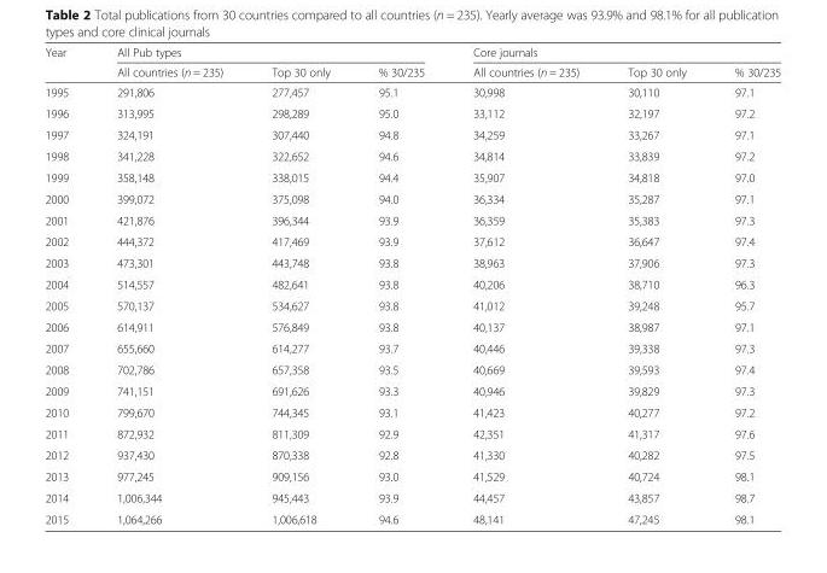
<table><thead><tr><td rowspan="2">Year</td><td colspan="3">All Pub types</td><td colspan="3">Core journals</td></tr><tr><td>All countries (n = 235)</td><td>Top 30 only</td><td>% 30/235</td><td>All countries (n = 235)</td><td>Top 30 only</td><td>% 30/235</td></tr></thead><tbody><tr><td>1995</td><td>291,806</td><td>277,457</td><td>95.1</td><td>30,998</td><td>30,110</td><td>97.1</td></tr><tr><td>1996</td><td>313,995</td><td>298,289</td><td>95.0</td><td>33,112</td><td>32,197</td><td>97.2</td></tr><tr><td>1997</td><td>324,191</td><td>307,440</td><td>94.8</td><td>34,259</td><td>33,267</td><td>97.1</td></tr><tr><td>1998</td><td>341,228</td><td>322,652</td><td>94.6</td><td>34,814</td><td>33,839</td><td>97.2</td></tr><tr><td>1999</td><td>358,148</td><td>338,015</td><td>94.4</td><td>35,907</td><td>34,818</td><td>97.0</td></tr><tr><td>2000</td><td>399,072</td><td>375,098</td><td>94.0</td><td>36,334</td><td>35,287</td><td>97.1</td></tr><tr><td>2001</td><td>421,876</td><td>396,344</td><td>93.9</td><td>36,359</td><td>35,383</td><td>97.3</td></tr><tr><td>2002</td><td>444,372</td><td>417,469</td><td>93.9</td><td>37,612</td><td>36,647</td><td>97.4</td></tr><tr><td>2003</td><td>473,301</td><td>443,748</td><td>93.8</td><td>38,963</td><td>37,906</td><td>97.3</td></tr><tr><td>2004</td><td>514,557</td><td>482,641</td><td>93.8</td><td>40,206</td><td>38,710</td><td>96.3</td></tr><tr><td>2005</td><td>570,137</td><td>534,627</td><td>93.8</td><td>41,012</td><td>39,248</td><td>95.7</td></tr><tr><td>2006</td><td>614,911</td><td>576,849</td><td>93.8</td><td>40,137</td><td>38,987</td><td>97.1</td></tr><tr><td>2007</td><td>655,660</td><td>614,277</td><td>93.7</td><td>40,446</td><td>39,338</td><td>97.3</td></tr><tr><td>2008</td><td>702,786</td><td>657,358</td><td>93.5</td><td>40,669</td><td>39,593</td><td>97.4</td></tr><tr><td>2009</td><td>741,151</td><td>691,626</td><td>93.3</td><td>40,946</td><td>39,829</td><td>97.3</td></tr><tr><td>2010</td><td>799,670</td><td>744,345</td><td>93.1</td><td>41,423</td><td>40,277</td><td>97.2</td></tr><tr><td>2011</td><td>872,932</td><td>811,309</td><td>92.9</td><td>42,351</td><td>41,317</td><td>97.6</td></tr><tr><td>2012</td><td>937,430</td><td>870,338</td><td>92.8</td><td>41,330</td><td>40,282</td><td>97.5</td></tr><tr><td>2013</td><td>977,245</td><td>909,156</td><td>93.0</td><td>41,529</td><td>40,724</td><td>98.1</td></tr><tr><td>2014</td><td>1,006,344</td><td>945,443</td><td>93.9</td><td>44,457</td><td>43,857</td><td>98.7</td></tr><tr><td>2015</td><td>1,064,266</td><td>1,006,618</td><td>94.6</td><td>48,141</td><td>47,245</td><td>98.1</td></tr></tbody></table>